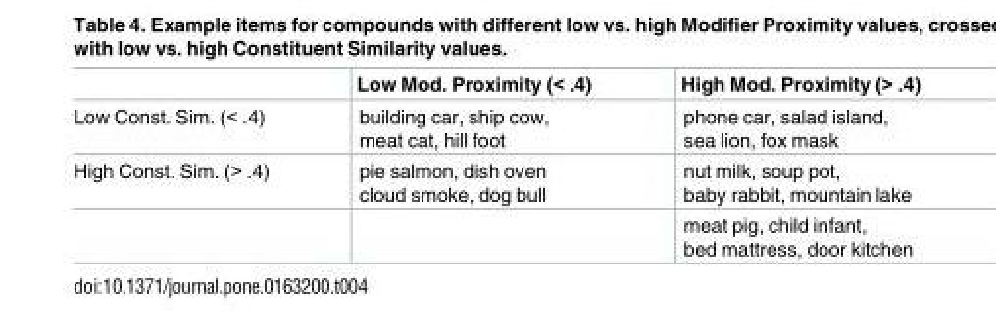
<table><thead><tr><td></td><td>Low Mod. Proximity (&lt; .4)</td><td>High Mod. Proximity (&gt; .4)</td></tr></thead><tbody><tr><td>Low Const. Sim. (&lt; .4)</td><td>building car, ship cow, meat cat, hill foot</td><td>phone car, salad island, sea lion, fox mask</td></tr><tr><td rowspan="2">High Const. Sim. (&gt; .4)</td><td>pie salmon, dish oven cloud smoke, dog bull</td><td>nut milk, soup pot, baby rabbit, mountain lake</td></tr><tr><td></td><td>meat pig, child infant, bed mattress, door kitchen</td></tr></tbody></table>